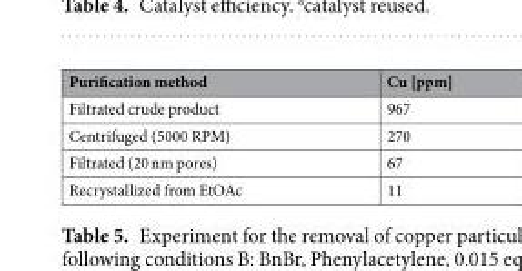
<table><thead><tr><td>Purification method</td><td>Cu [ppm]</td></tr></thead><tbody><tr><td>Filtrated crude product</td><td>967</td></tr><tr><td>Centrifuged (5000 RPM)</td><td>270</td></tr><tr><td>Filtrated (20 nm pores)</td><td>67</td></tr><tr><td>Recrystallized from EtOAc</td><td>11</td></tr></tbody></table>